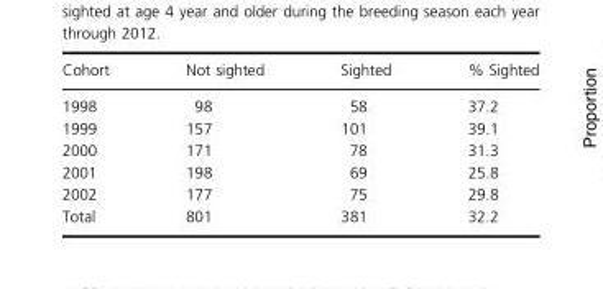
<table><thead><tr><td>Cohort</td><td>Not sighted</td><td>Sighted</td><td>% Sighted</td></tr></thead><tbody><tr><td>1998</td><td>98</td><td>58</td><td>37.2</td></tr><tr><td>1999</td><td>157</td><td>101</td><td>39.1</td></tr><tr><td>2000</td><td>171</td><td>78</td><td>31.3</td></tr><tr><td>2001</td><td>198</td><td>69</td><td>25.8</td></tr><tr><td>2002</td><td>177</td><td>75</td><td>29.8</td></tr><tr><td>Total</td><td>801</td><td>381</td><td>32.2</td></tr></tbody></table>